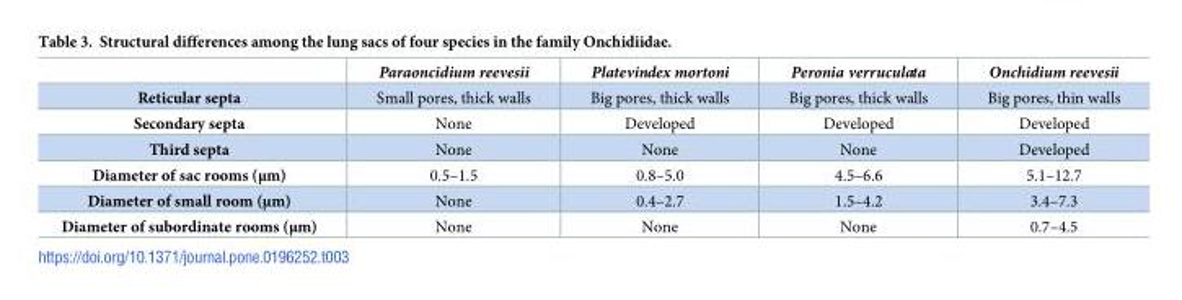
<table><thead><tr><td></td><td>Paraoncidium reevesii</td><td>Platevindex mortoni</td><td>Peronia verruculata</td><td>Onchidium reevesii</td></tr></thead><tbody><tr><td>Reticular septa</td><td>Small pores, thick walls</td><td>Big pores, thick walls</td><td>Big pores, thick walls</td><td>Big pores, thin walls</td></tr><tr><td>Secondary septa</td><td>None</td><td>Developed</td><td>Developed</td><td>Developed</td></tr><tr><td>Third septa</td><td>None</td><td>None</td><td>None</td><td>Developed</td></tr><tr><td>Diameter of sac rooms (μm)</td><td>0.5–1.5</td><td>0.8–5.0</td><td>4.5–6.6</td><td>5.1–12.7</td></tr><tr><td>Diameter of small room (μm)</td><td>None</td><td>0.4–2.7</td><td>1.5–4.2</td><td>3.4–7.3</td></tr><tr><td>Diameter of subordinate rooms (μm)</td><td>None</td><td>None</td><td>None</td><td>0.7–4.5</td></tr></tbody></table>